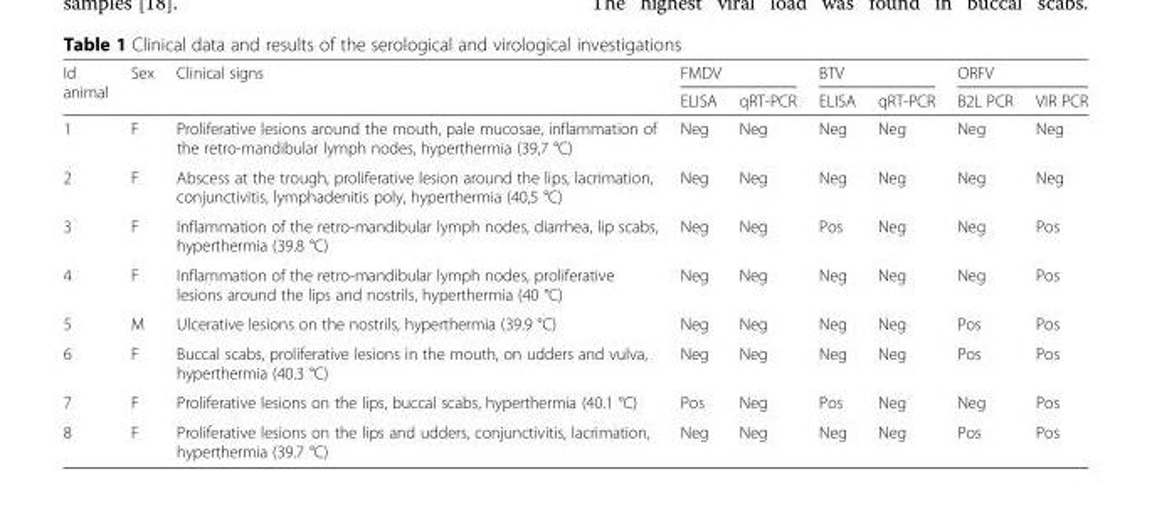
<table><thead><tr><td rowspan="2">Id animal</td><td rowspan="2">Sex</td><td rowspan="2">Clinical signs</td><td colspan="2">FMDV</td><td colspan="2">BTV</td><td colspan="2">ORFV</td></tr><tr><td>ELISA</td><td>qRT-PCR</td><td>ELISA</td><td>qRT-PCR</td><td>B2L PCR</td><td>VIR PCR</td></tr></thead><tbody><tr><td>1</td><td>F</td><td>Proliferative lesions around the mouth, pale mucosae, inflammation of the retro-mandibular lymph nodes, hyperthermia (39,7 °C)</td><td>Neg</td><td>Neg</td><td>Neg</td><td>Neg</td><td>Neg</td><td>Neg</td></tr><tr><td>2</td><td>F</td><td>Abscess at the trough, proliferative lesion around the lips, lacrimation, conjunctivitis, lymphadenitis poly, hyperthermia (40,5 °C)</td><td>Neg</td><td>Neg</td><td>Neg</td><td>Neg</td><td>Neg</td><td>Neg</td></tr><tr><td>3</td><td>F</td><td>Inflammation of the retro-mandibular lymph nodes, diarrhea, lip scabs, hyperthermia (39.8 °C)</td><td>Neg</td><td>Neg</td><td>Pos</td><td>Neg</td><td>Neg</td><td>Pos</td></tr><tr><td>4</td><td>F</td><td>Inflammation of the retro-mandibular lymph nodes, proliferative lesions around the lips and nostrils, hyperthermia (40 °C)</td><td>Neg</td><td>Neg</td><td>Neg</td><td>Neg</td><td>Neg</td><td>Pos</td></tr><tr><td>5</td><td>M</td><td>Ulcerative lesions on the nostrils, hyperthermia (39.9 °C)</td><td>Neg</td><td>Neg</td><td>Neg</td><td>Neg</td><td>Pos</td><td>Pos</td></tr><tr><td>6</td><td>F</td><td>Buccal scabs, proliferative lesions in the mouth, on udders and vulva, hyperthermia (40.3 °C)</td><td>Neg</td><td>Neg</td><td>Neg</td><td>Neg</td><td>Pos</td><td>Pos</td></tr><tr><td>7</td><td>F</td><td>Proliferative lesions on the lips, buccal scabs, hyperthermia (40.1 °C)</td><td>Pos</td><td>Neg</td><td>Pos</td><td>Neg</td><td>Neg</td><td>Pos</td></tr><tr><td>8</td><td>F</td><td>Proliferative lesions on the lips and udders, conjunctivitis, lacrimation, hyperthermia (39.7 °C)</td><td>Neg</td><td>Neg</td><td>Neg</td><td>Neg</td><td>Pos</td><td>Pos</td></tr></tbody></table>